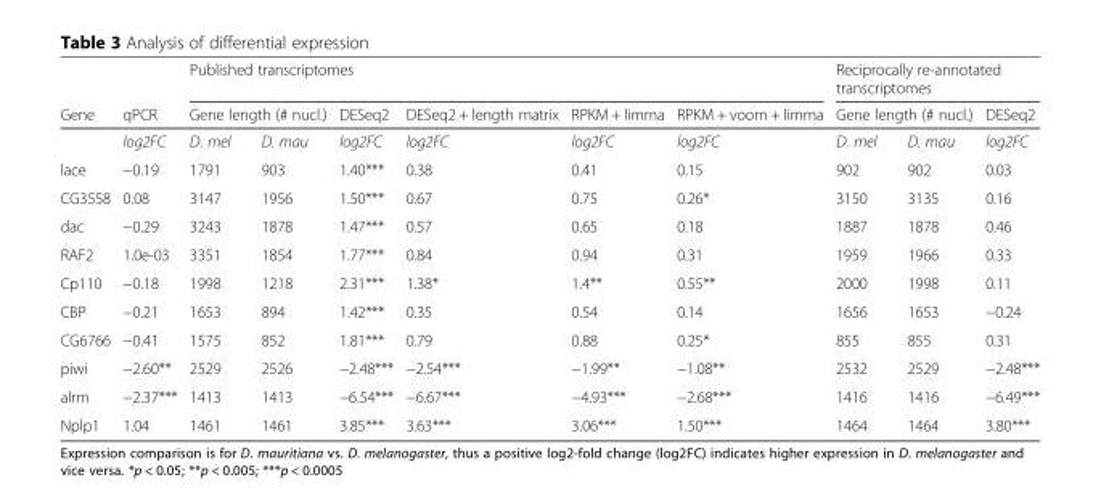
<table><thead><tr><td rowspan="3">Gene</td><td rowspan="3">qPCR log2FC</td><td colspan="6">Published transcriptomes</td><td colspan="3">Reciprocally re-annotated transcriptomes</td></tr><tr><td colspan="2">Gene length (# nucl.)</td><td rowspan="2">DESeq2 log2FC</td><td rowspan="2">DESeq2 + length matrix log2FC</td><td rowspan="2">RPKM + limma log2FC</td><td rowspan="2">RPKM + voom + limma log2FC</td><td colspan="2">Gene length (# nucl.)</td><td rowspan="2">DESeq2 log2FC</td></tr><tr><td>D. mel</td><td>D. mau</td><td>D. mel</td><td>D. mau</td></tr></thead><tbody><tr><td>lace</td><td>−0.19</td><td>1791</td><td>903</td><td>1.40***</td><td>0.38</td><td>0.41</td><td>0.15</td><td>902</td><td>902</td><td>0.03</td></tr><tr><td>CG3558</td><td>0.08</td><td>3147</td><td>1956</td><td>1.50***</td><td>0.67</td><td>0.75</td><td>0.26*</td><td>3150</td><td>3135</td><td>0.16</td></tr><tr><td>dac</td><td>−0.29</td><td>3243</td><td>1878</td><td>1.47***</td><td>0.57</td><td>0.65</td><td>0.18</td><td>1887</td><td>1878</td><td>0.46</td></tr><tr><td>RAF2</td><td>1.0e-03</td><td>3351</td><td>1854</td><td>1.77***</td><td>0.84</td><td>0.94</td><td>0.31</td><td>1959</td><td>1966</td><td>0.33</td></tr><tr><td>Cp110</td><td>−0.18</td><td>1998</td><td>1218</td><td>2.31***</td><td>1.38*</td><td>1.4**</td><td>0.55**</td><td>2000</td><td>1998</td><td>0.11</td></tr><tr><td>CBP</td><td>−0.21</td><td>1653</td><td>894</td><td>1.42***</td><td>0.35</td><td>0.54</td><td>0.14</td><td>1656</td><td>1653</td><td>−0.24</td></tr><tr><td>CG6766</td><td>−0.41</td><td>1575</td><td>852</td><td>1.81***</td><td>0.79</td><td>0.88</td><td>0.25*</td><td>855</td><td>855</td><td>0.31</td></tr><tr><td>piwi</td><td>−2.60**</td><td>2529</td><td>2526</td><td>−2.48***</td><td>−2.54***</td><td>−1.99**</td><td>−1.08**</td><td>2532</td><td>2529</td><td>−2.48***</td></tr><tr><td>alrm</td><td>−2.37***</td><td>1413</td><td>1413</td><td>−6.54***</td><td>−6.67***</td><td>−4.93***</td><td>−2.68***</td><td>1416</td><td>1416</td><td>−6.49***</td></tr><tr><td>Nplp1</td><td>1.04</td><td>1461</td><td>1461</td><td>3.85***</td><td>3.63***</td><td>3.06***</td><td>1.50***</td><td>1464</td><td>1464</td><td>3.80***</td></tr></tbody></table>